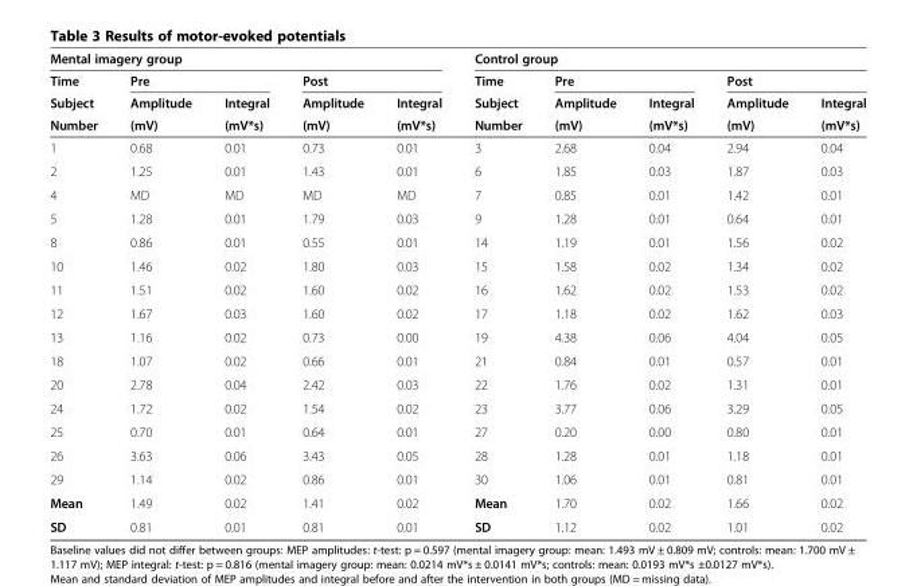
<table><thead><tr><td colspan="5">Mental imagery group</td><td colspan="5">Control group</td></tr><tr><td rowspan="3">Time Subject Number</td><td colspan="2">Pre</td><td colspan="2">Post</td><td rowspan="3">Time Subject Number</td><td colspan="2">Pre</td><td colspan="2">Post</td></tr><tr><td rowspan="2">Amplitude (mV)</td><td rowspan="2">Integral (mV*s)</td><td rowspan="2">Amplitude (mV)</td><td rowspan="2">Integral (mV*s)</td><td rowspan="2">Amplitude (mV)</td><td rowspan="2">Integral (mV*s)</td><td rowspan="2">Amplitude (mV)</td><td rowspan="2">Integral (mV*s)</td></tr><tr></tr></thead><tbody><tr><td>1</td><td>0.68</td><td>0.01</td><td>0.73</td><td>0.01</td><td>3</td><td>2.68</td><td>0.04</td><td>2.94</td><td>0.04</td></tr><tr><td>2</td><td>1.25</td><td>0.01</td><td>1.43</td><td>0.01</td><td>6</td><td>1.85</td><td>0.03</td><td>1.87</td><td>0.03</td></tr><tr><td>4</td><td>MD</td><td>MD</td><td>MD</td><td>MD</td><td>7</td><td>0.85</td><td>0.01</td><td>1.42</td><td>0.01</td></tr><tr><td>5</td><td>1.28</td><td>0.01</td><td>1.79</td><td>0.03</td><td>9</td><td>1.28</td><td>0.01</td><td>0.64</td><td>0.01</td></tr><tr><td>8</td><td>0.86</td><td>0.01</td><td>0.55</td><td>0.01</td><td>14</td><td>1.19</td><td>0.01</td><td>1.56</td><td>0.02</td></tr><tr><td>10</td><td>1.46</td><td>0.02</td><td>1.80</td><td>0.03</td><td>15</td><td>1.58</td><td>0.02</td><td>1.34</td><td>0.02</td></tr><tr><td>11</td><td>1.51</td><td>0.02</td><td>1.60</td><td>0.02</td><td>16</td><td>1.62</td><td>0.02</td><td>1.53</td><td>0.02</td></tr><tr><td>12</td><td>1.67</td><td>0.03</td><td>1.60</td><td>0.02</td><td>17</td><td>1.18</td><td>0.02</td><td>1.62</td><td>0.03</td></tr><tr><td>13</td><td>1.16</td><td>0.02</td><td>0.73</td><td>0.00</td><td>19</td><td>4.38</td><td>0.06</td><td>4.04</td><td>0.05</td></tr><tr><td>18</td><td>1.07</td><td>0.02</td><td>0.66</td><td>0.01</td><td>21</td><td>0.84</td><td>0.01</td><td>0.57</td><td>0.01</td></tr><tr><td>20</td><td>2.78</td><td>0.04</td><td>2.42</td><td>0.03</td><td>22</td><td>1.76</td><td>0.02</td><td>1.31</td><td>0.01</td></tr><tr><td>24</td><td>1.72</td><td>0.02</td><td>1.54</td><td>0.02</td><td>23</td><td>3.77</td><td>0.06</td><td>3.29</td><td>0.05</td></tr><tr><td>25</td><td>0.70</td><td>0.01</td><td>0.64</td><td>0.01</td><td>27</td><td>0.20</td><td>0.00</td><td>0.80</td><td>0.01</td></tr><tr><td>26</td><td>3.63</td><td>0.06</td><td>3.43</td><td>0.05</td><td>28</td><td>1.28</td><td>0.01</td><td>1.18</td><td>0.01</td></tr><tr><td>29</td><td>1.14</td><td>0.02</td><td>0.86</td><td>0.01</td><td>30</td><td>1.06</td><td>0.01</td><td>0.81</td><td>0.01</td></tr><tr><td>Mean</td><td>1.49</td><td>0.02</td><td>1.41</td><td>0.02</td><td>Mean</td><td>1.70</td><td>0.02</td><td>1.66</td><td>0.02</td></tr><tr><td>SD</td><td>0.81</td><td>0.01</td><td>0.81</td><td>0.01</td><td>SD</td><td>1.12</td><td>0.02</td><td>1.01</td><td>0.02</td></tr></tbody></table>